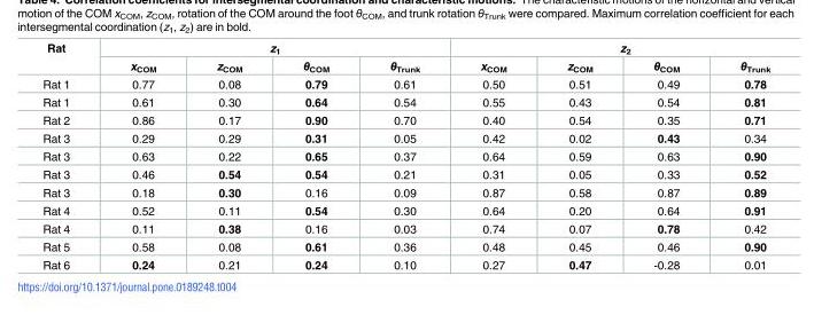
<table><thead><tr><td rowspan="2">Rat</td><td colspan="4">z<sub>1</sub></td><td colspan="4">z<sub>2</sub></td></tr><tr><td>x<sub>COM</sub></td><td>z<sub>COM</sub></td><td>θ<sub>COM</sub></td><td>θ<sub>Trunk</sub></td><td>x<sub>COM</sub></td><td>z<sub>COM</sub></td><td>θ<sub>COM</sub></td><td>θ<sub>Trunk</sub></td></tr></thead><tbody><tr><td>Rat 1</td><td>0.77</td><td>0.08</td><td>0.79</td><td>0.61</td><td>0.50</td><td>0.51</td><td>0.49</td><td>0.78</td></tr><tr><td>Rat 1</td><td>0.61</td><td>0.30</td><td>0.64</td><td>0.54</td><td>0.55</td><td>0.43</td><td>0.54</td><td>0.81</td></tr><tr><td>Rat 2</td><td>0.86</td><td>0.17</td><td>0.90</td><td>0.70</td><td>0.40</td><td>0.54</td><td>0.35</td><td>0.71</td></tr><tr><td>Rat 3</td><td>0.29</td><td>0.29</td><td>0.31</td><td>0.05</td><td>0.42</td><td>0.02</td><td>0.43</td><td>0.34</td></tr><tr><td>Rat 3</td><td>0.63</td><td>0.22</td><td>0.65</td><td>0.37</td><td>0.64</td><td>0.59</td><td>0.63</td><td>0.90</td></tr><tr><td>Rat 3</td><td>0.46</td><td>0.54</td><td>0.54</td><td>0.21</td><td>0.31</td><td>0.05</td><td>0.33</td><td>0.52</td></tr><tr><td>Rat 3</td><td>0.18</td><td>0.30</td><td>0.16</td><td>0.09</td><td>0.87</td><td>0.58</td><td>0.87</td><td>0.89</td></tr><tr><td>Rat 4</td><td>0.52</td><td>0.11</td><td>0.54</td><td>0.30</td><td>0.64</td><td>0.20</td><td>0.64</td><td>0.91</td></tr><tr><td>Rat 4</td><td>0.11</td><td>0.38</td><td>0.16</td><td>0.03</td><td>0.74</td><td>0.07</td><td>0.78</td><td>0.42</td></tr><tr><td>Rat 5</td><td>0.58</td><td>0.08</td><td>0.61</td><td>0.36</td><td>0.48</td><td>0.45</td><td>0.46</td><td>0.90</td></tr><tr><td>Rat 6</td><td>0.24</td><td>0.21</td><td>0.24</td><td>0.10</td><td>0.27</td><td>0.47</td><td>-0.28</td><td>0.01</td></tr></tbody></table>